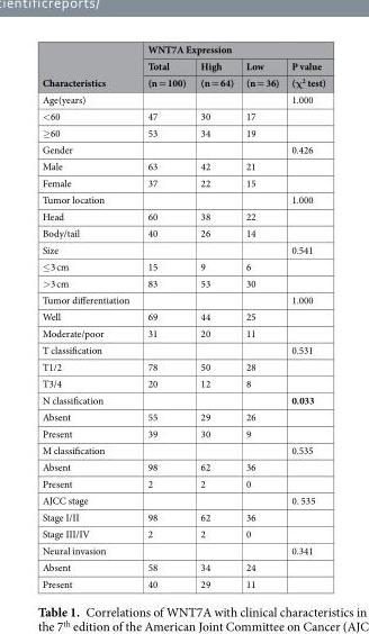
<table><thead><tr><td rowspan="3">Characteristics</td><td colspan="4">WNT7A Expression</td></tr><tr><td rowspan="2">Total (n = 100)</td><td rowspan="2">High (n = 64)</td><td rowspan="2">Low (n = 36)</td><td rowspan="2">P value (χ<sup>2</sup> test)</td></tr><tr></tr></thead><tbody><tr><td>Age(years)</td><td></td><td></td><td></td><td>1.000</td></tr><tr><td>&lt;60</td><td>47</td><td>30</td><td>17</td><td></td></tr><tr><td>≥60</td><td>53</td><td>34</td><td>19</td><td></td></tr><tr><td>Gender</td><td></td><td></td><td></td><td>0.426</td></tr><tr><td>Male</td><td>63</td><td>42</td><td>21</td><td></td></tr><tr><td>Female</td><td>37</td><td>22</td><td>15</td><td></td></tr><tr><td>Tumor location</td><td></td><td></td><td></td><td>1.000</td></tr><tr><td>Head</td><td>60</td><td>38</td><td>22</td><td></td></tr><tr><td>Body/tail</td><td>40</td><td>26</td><td>14</td><td></td></tr><tr><td>Size</td><td></td><td></td><td></td><td>0.541</td></tr><tr><td>≤3 cm</td><td>15</td><td>9</td><td>6</td><td></td></tr><tr><td>&gt;3 cm</td><td>83</td><td>53</td><td>30</td><td></td></tr><tr><td>Tumor differentiation</td><td></td><td></td><td></td><td>1.000</td></tr><tr><td>Well</td><td>69</td><td>44</td><td>25</td><td></td></tr><tr><td>Moderate/poor</td><td>31</td><td>20</td><td>11</td><td></td></tr><tr><td>T classification</td><td></td><td></td><td></td><td>0.531</td></tr><tr><td>T1/2</td><td>78</td><td>50</td><td>28</td><td></td></tr><tr><td>T3/4</td><td>20</td><td>12</td><td>8</td><td></td></tr><tr><td>N classification</td><td></td><td></td><td></td><td>0.033</td></tr><tr><td>Absent</td><td>55</td><td>29</td><td>26</td><td></td></tr><tr><td>Present</td><td>39</td><td>30</td><td>9</td><td></td></tr><tr><td>M classification</td><td></td><td></td><td></td><td>0.535</td></tr><tr><td>Absent</td><td>98</td><td>62</td><td>36</td><td></td></tr><tr><td>Present</td><td>2</td><td>2</td><td>0</td><td></td></tr><tr><td>AJCC stage</td><td></td><td></td><td></td><td>0. 535</td></tr><tr><td>Stage I/II</td><td>98</td><td>62</td><td>36</td><td></td></tr><tr><td>Stage III/IV</td><td>2</td><td>2</td><td>0</td><td></td></tr><tr><td>Neural invasion</td><td></td><td></td><td></td><td>0.341</td></tr><tr><td>Absent</td><td>58</td><td>34</td><td>24</td><td></td></tr><tr><td>Present</td><td>40</td><td>29</td><td>11</td><td></td></tr></tbody></table>